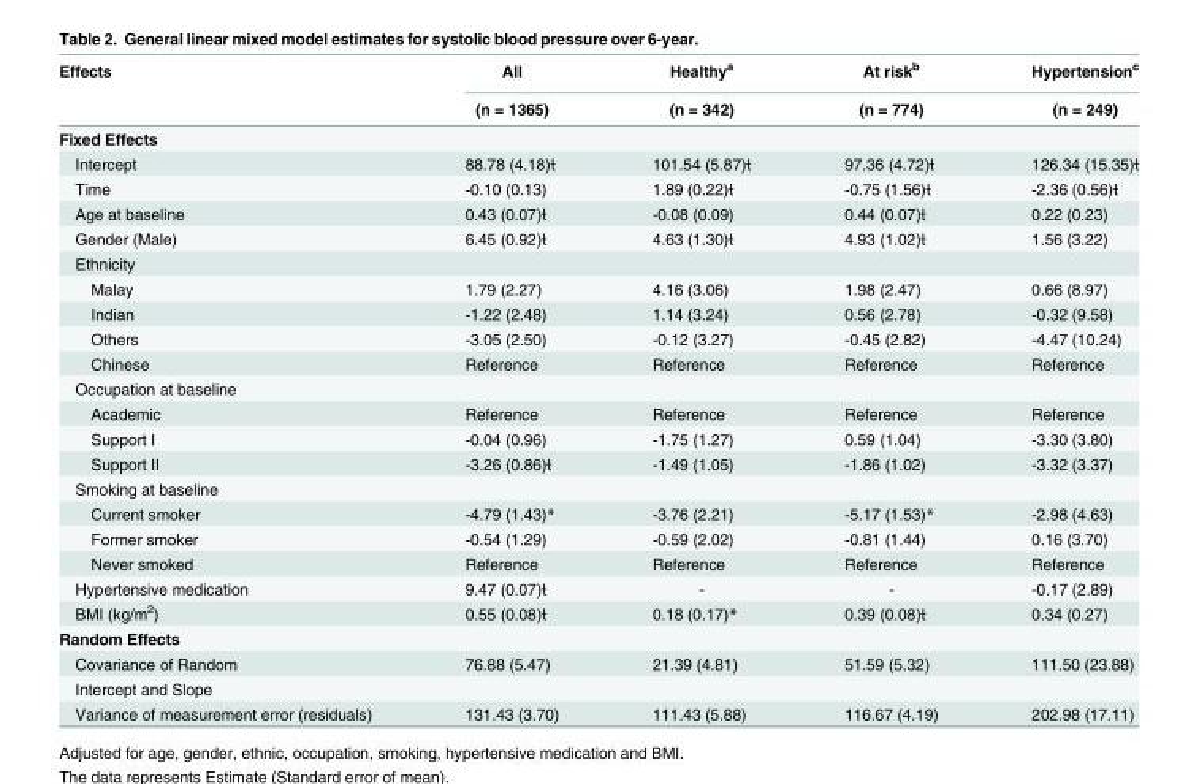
<table><thead><tr><td rowspan="2">Effects</td><td rowspan="2">All (n = 1365)</td><td rowspan="2">Healthy<sup>a</sup> (n = 342)</td><td rowspan="2">At risk<sup>b</sup> (n = 774)</td><td rowspan="2">Hypertension<sup>c</sup> (n = 249)</td></tr><tr></tr></thead><tbody><tr><td colspan="5">Fixed Effects</td></tr><tr><td>Intercept</td><td>88.78 (4.18)ƚ</td><td>101.54 (5.87)ƚ</td><td>97.36 (4.72)ƚ</td><td>126.34 (15.35)ƚ</td></tr><tr><td>Time</td><td>-0.10 (0.13)</td><td>1.89 (0.22)ƚ</td><td>-0.75 (1.56)ƚ</td><td>-2.36 (0.56)ƚ</td></tr><tr><td>Age at baseline</td><td>0.43 (0.07)ƚ</td><td>-0.08 (0.09)</td><td>0.44 (0.07)ƚ</td><td>0.22 (0.23)</td></tr><tr><td>Gender (Male)</td><td>6.45 (0.92)ƚ</td><td>4.63 (1.30)ƚ</td><td>4.93 (1.02)ƚ</td><td>1.56 (3.22)</td></tr><tr><td colspan="5">Ethnicity</td></tr><tr><td>Malay</td><td>1.79 (2.27)</td><td>4.16 (3.06)</td><td>1.98 (2.47)</td><td>0.66 (8.97)</td></tr><tr><td>Indian</td><td>-1.22 (2.48)</td><td>1.14 (3.24)</td><td>0.56 (2.78)</td><td>-0.32 (9.58)</td></tr><tr><td>Others</td><td>-3.05 (2.50)</td><td>-0.12 (3.27)</td><td>-0.45 (2.82)</td><td>-4.47 (10.24)</td></tr><tr><td>Chinese</td><td>Reference</td><td>Reference</td><td>Reference</td><td>Reference</td></tr><tr><td colspan="5">Occupation at baseline</td></tr><tr><td>Academic</td><td>Reference</td><td>Reference</td><td>Reference</td><td>Reference</td></tr><tr><td>Support I</td><td>-0.04 (0.96)</td><td>-1.75 (1.27)</td><td>0.59 (1.04)</td><td>-3.30 (3.80)</td></tr><tr><td>Support II</td><td>-3.26 (0.86)ƚ</td><td>-1.49 (1.05)</td><td>-1.86 (1.02)</td><td>-3.32 (3.37)</td></tr><tr><td colspan="5">Smoking at baseline</td></tr><tr><td>Current smoker</td><td>-4.79 (1.43)*</td><td>-3.76 (2.21)</td><td>-5.17 (1.53)*</td><td>-2.98 (4.63)</td></tr><tr><td>Former smoker</td><td>-0.54 (1.29)</td><td>-0.59 (2.02)</td><td>-0.81 (1.44)</td><td>0.16 (3.70)</td></tr><tr><td>Never smoked</td><td>Reference</td><td>Reference</td><td>Reference</td><td>Reference</td></tr><tr><td>Hypertensive medication</td><td>9.47 (0.07)ƚ</td><td>-</td><td>-</td><td>-0.17 (2.89)</td></tr><tr><td>BMI (kg/m<sup>2</sup>)</td><td>0.55 (0.08)ƚ</td><td>0.18 (0.17)*</td><td>0.39 (0.08)ƚ</td><td>0.34 (0.27)</td></tr><tr><td colspan="5">Random Effects</td></tr><tr><td>Covariance of Random</td><td>76.88 (5.47)</td><td>21.39 (4.81)</td><td>51.59 (5.32)</td><td>111.50 (23.88)</td></tr><tr><td colspan="5">Intercept and Slope</td></tr><tr><td>Variance of measurement error (residuals)</td><td>131.43 (3.70)</td><td>111.43 (5.88)</td><td>116.67 (4.19)</td><td>202.98 (17.11)</td></tr></tbody></table>